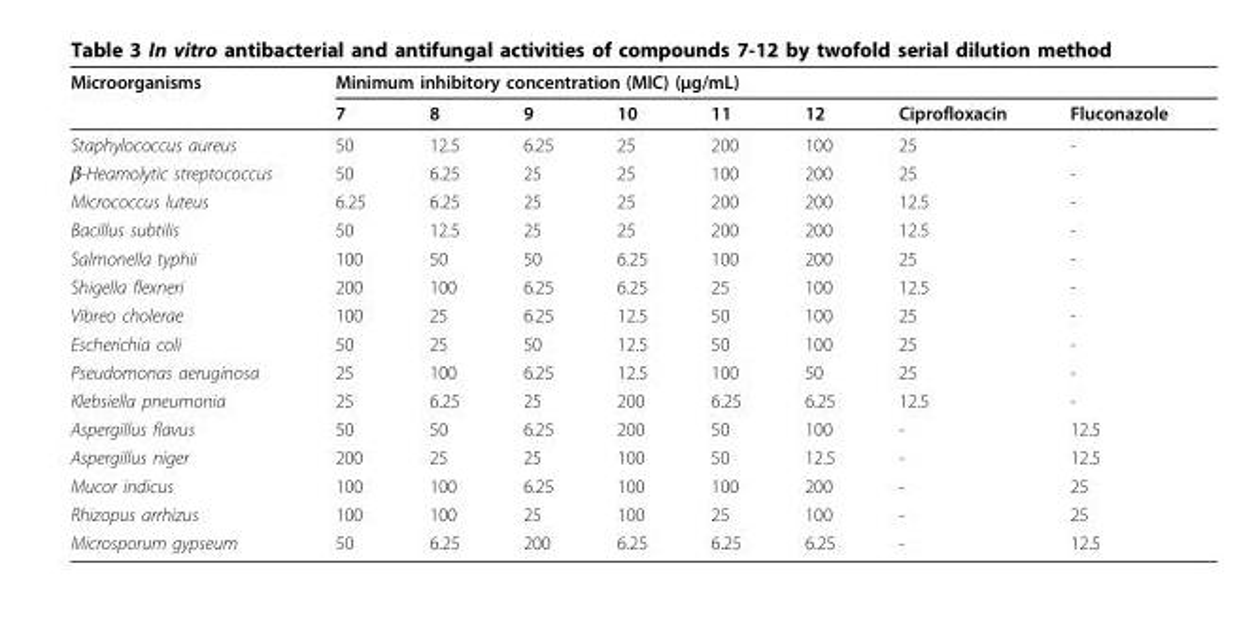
<table><thead><tr><td rowspan="2">Microorganisms</td><td colspan="8">Minimum inhibitory concentration (MIC) (μg/mL)</td></tr><tr><td>7</td><td>8</td><td>9</td><td>10</td><td>11</td><td>12</td><td>Ciprofloxacin</td><td>Fluconazole</td></tr></thead><tbody><tr><td>Staphylococcus aureus</td><td>50</td><td>12.5</td><td>6.25</td><td>25</td><td>200</td><td>100</td><td>25</td><td>-</td></tr><tr><td>β-Heamolytic streptococcus</td><td>50</td><td>6.25</td><td>25</td><td>25</td><td>100</td><td>200</td><td>25</td><td>-</td></tr><tr><td>Micrococcus luteus</td><td>6.25</td><td>6.25</td><td>25</td><td>25</td><td>200</td><td>200</td><td>12.5</td><td>-</td></tr><tr><td>Bacillus subtilis</td><td>50</td><td>12.5</td><td>25</td><td>25</td><td>200</td><td>200</td><td>12.5</td><td>-</td></tr><tr><td>Salmonella typhii</td><td>100</td><td>50</td><td>50</td><td>6.25</td><td>100</td><td>200</td><td>25</td><td>-</td></tr><tr><td>Shigella flexneri</td><td>200</td><td>100</td><td>6.25</td><td>6.25</td><td>25</td><td>100</td><td>12.5</td><td>-</td></tr><tr><td>Vibreo cholerae</td><td>100</td><td>25</td><td>6.25</td><td>12.5</td><td>50</td><td>100</td><td>25</td><td>-</td></tr><tr><td>Escherichia coli</td><td>50</td><td>25</td><td>50</td><td>12.5</td><td>50</td><td>100</td><td>25</td><td>-</td></tr><tr><td>Pseudomonas aeruginosa</td><td>25</td><td>100</td><td>6.25</td><td>12.5</td><td>100</td><td>50</td><td>25</td><td>-</td></tr><tr><td>Klebsiella pneumonia</td><td>25</td><td>6.25</td><td>25</td><td>200</td><td>6.25</td><td>6.25</td><td>12.5</td><td>-</td></tr><tr><td>Aspergillus flavus</td><td>50</td><td>50</td><td>6.25</td><td>200</td><td>50</td><td>100</td><td>-</td><td>12.5</td></tr><tr><td>Aspergillus niger</td><td>200</td><td>25</td><td>25</td><td>100</td><td>50</td><td>12.5</td><td>-</td><td>12.5</td></tr><tr><td>Mucor indicus</td><td>100</td><td>100</td><td>6.25</td><td>100</td><td>100</td><td>200</td><td>-</td><td>25</td></tr><tr><td>Rhizopus arrhizus</td><td>100</td><td>100</td><td>25</td><td>100</td><td>25</td><td>100</td><td>-</td><td>25</td></tr><tr><td>Microsporum gypseum</td><td>50</td><td>6.25</td><td>200</td><td>6.25</td><td>6.25</td><td>6.25</td><td>-</td><td>12.5</td></tr></tbody></table>